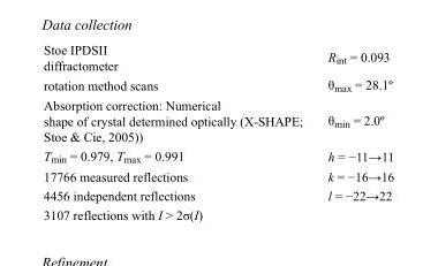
<table><tbody><tr><td>Stoe IPDSII diffractometer</td><td>R<sub>int</sub> = 0.093</td></tr><tr><td>rotation method scans</td><td>θ<sub>max</sub> = 28.1º</td></tr><tr><td>Absorption correction: Numerical shape of crystal determined optically (X-SHAPE; Stoe &amp; Cie, 2005))</td><td>θ<sub>min</sub> = 2.0º</td></tr><tr><td>T<sub>min</sub> = 0.979, T<sub>max</sub> = 0.991</td><td>h = −11→11</td></tr><tr><td>17766 measured reflections</td><td>k = −16→16</td></tr><tr><td>4456 independent reflections</td><td>l = −22→22</td></tr><tr><td>3107 reflections with I &gt; 2σ(I)</td><td></td></tr></tbody></table>